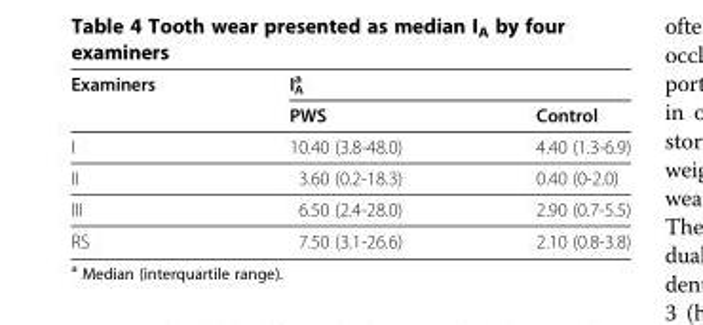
<table><thead><tr><td rowspan="2">Examiners</td><td colspan="2">I<sub>A</sub> <sup>a</sup></td></tr><tr><td>PWS</td><td>Control</td></tr></thead><tbody><tr><td>I</td><td>10.40 (3.8-48.0)</td><td>4.40 (1.3-6.9)</td></tr><tr><td>II</td><td>3.60 (0.2-18.3)</td><td>0.40 (0-2.0)</td></tr><tr><td>III</td><td>6.50 (2.4-28.0)</td><td>2.90 (0.7-5.5)</td></tr><tr><td>RS</td><td>7.50 (3.1-26.6)</td><td>2.10 (0.8-3.8)</td></tr></tbody></table>